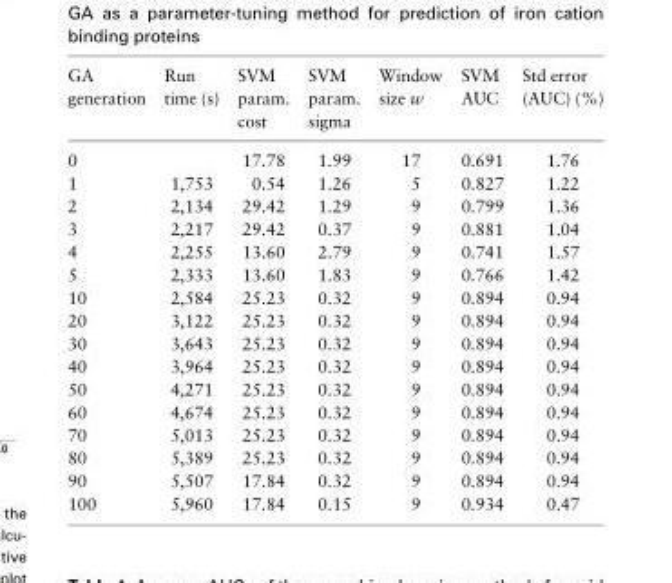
<table><thead><tr><td>GA generation</td><td>Run time (s)</td><td>SVM param. cost</td><td>SVM param. sigma</td><td>Window size w</td><td>SVM AUC</td><td>Std error (AUC) (%)</td></tr></thead><tbody><tr><td>0</td><td></td><td>17.78</td><td>1.99</td><td>17</td><td>0.691</td><td>1.76</td></tr><tr><td>1</td><td>1,753</td><td>0.54</td><td>1.26</td><td>5</td><td>0.827</td><td>1.22</td></tr><tr><td>2</td><td>2,134</td><td>29.42</td><td>1.29</td><td>9</td><td>0.799</td><td>1.36</td></tr><tr><td>3</td><td>2,217</td><td>29.42</td><td>0.37</td><td>9</td><td>0.881</td><td>1.04</td></tr><tr><td>4</td><td>2,255</td><td>13.60</td><td>2.79</td><td>9</td><td>0.741</td><td>1.57</td></tr><tr><td>5</td><td>2,333</td><td>13.60</td><td>1.83</td><td>9</td><td>0.766</td><td>1.42</td></tr><tr><td>10</td><td>2,584</td><td>25.23</td><td>0.32</td><td>9</td><td>0.894</td><td>0.94</td></tr><tr><td>20</td><td>3,122</td><td>25.23</td><td>0.32</td><td>9</td><td>0.894</td><td>0.94</td></tr><tr><td>30</td><td>3,643</td><td>25.23</td><td>0.32</td><td>9</td><td>0.894</td><td>0.94</td></tr><tr><td>40</td><td>3,964</td><td>25.23</td><td>0.32</td><td>9</td><td>0.894</td><td>0.94</td></tr><tr><td>50</td><td>4,271</td><td>25.23</td><td>0.32</td><td>9</td><td>0.894</td><td>0.94</td></tr><tr><td>60</td><td>4,674</td><td>25.23</td><td>0.32</td><td>9</td><td>0.894</td><td>0.94</td></tr><tr><td>70</td><td>5,013</td><td>25.23</td><td>0.32</td><td>9</td><td>0.894</td><td>0.94</td></tr><tr><td>80</td><td>5,389</td><td>25.23</td><td>0.32</td><td>9</td><td>0.894</td><td>0.94</td></tr><tr><td>90</td><td>5,507</td><td>17.84</td><td>0.32</td><td>9</td><td>0.894</td><td>0.94</td></tr><tr><td>100</td><td>5,960</td><td>17.84</td><td>0.15</td><td>9</td><td>0.934</td><td>0.47</td></tr></tbody></table>